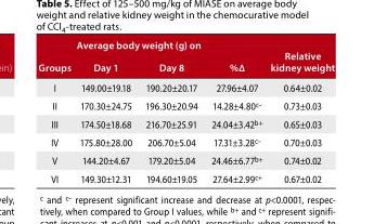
<table><thead><tr><td rowspan="2">Groups</td><td colspan="2">Average body weight (g) on</td><td rowspan="2">%∆</td><td rowspan="2">Relative kidney weight</td></tr><tr><td>Day 1</td><td>Day 8</td></tr></thead><tbody><tr><td>I</td><td>149.00±19.18</td><td>190.20±20.17</td><td>27.96±4.07</td><td>0.64±0.02</td></tr><tr><td>II</td><td>170.30±24.75</td><td>196.30±20.94</td><td>14.28±4.80<sup>c–</sup></td><td>0.73±0.03</td></tr><tr><td>III</td><td>174.50±18.68</td><td>216.70±25.91</td><td>24.04±3.42<sup>b+</sup></td><td>0.65±0.03</td></tr><tr><td>IV</td><td>175.80±28.00</td><td>206.70±5.04</td><td>17.31±3.28<sup>c–</sup></td><td>0.70±0.03</td></tr><tr><td>V</td><td>144.20±4.67</td><td>179.20±5.04</td><td>24.46±6.77<sup>b+</sup></td><td>0.74±0.02</td></tr><tr><td>VI</td><td>149.30±12.31</td><td>194.60±19.05</td><td>27.64±2.99<sup>c+</sup></td><td>0.67±0.02</td></tr></tbody></table>